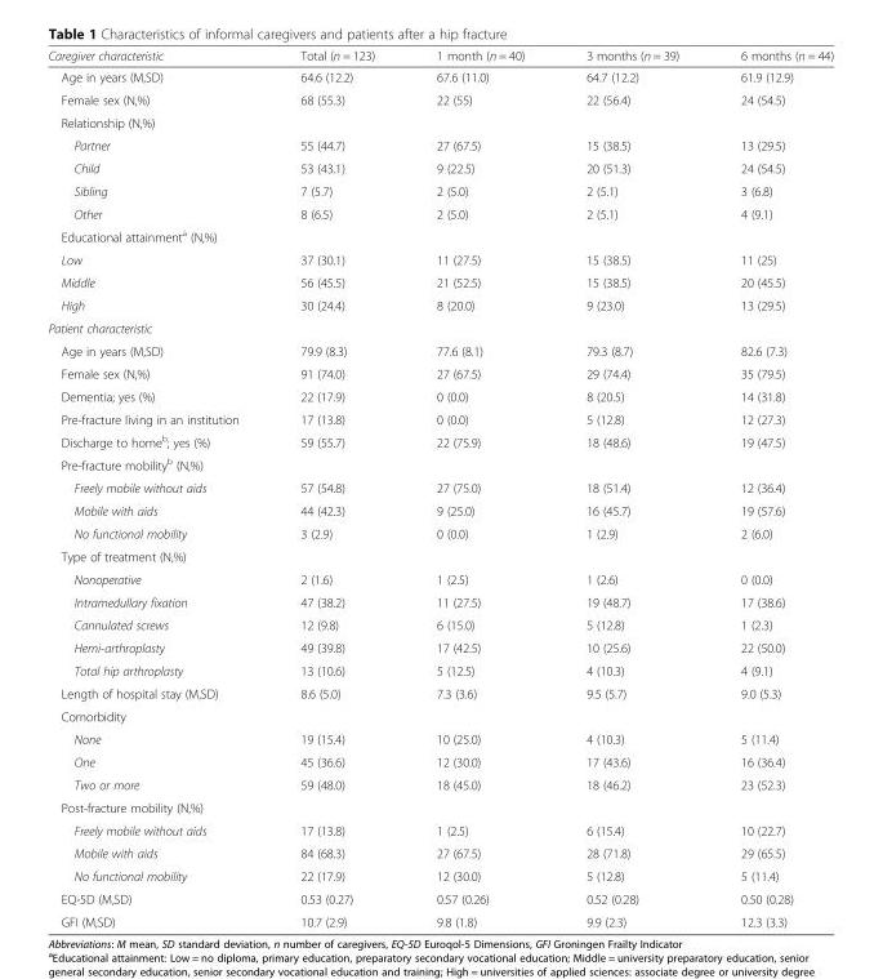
<table><thead><tr><td>Caregiver characteristic</td><td>Total (n = 123)</td><td>1 month (n = 40)</td><td>3 months (n = 39)</td><td>6 months (n = 44)</td></tr></thead><tbody><tr><td>Age in years (M,SD)</td><td>64.6 (12.2)</td><td>67.6 (11.0)</td><td>64.7 (12.2)</td><td>61.9 (12.9)</td></tr><tr><td>Female sex (N,%)</td><td>68 (55.3)</td><td>22 (55)</td><td>22 (56.4)</td><td>24 (54.5)</td></tr><tr><td colspan="5">Relationship (N,%)</td></tr><tr><td>Partner</td><td>55 (44.7)</td><td>27 (67.5)</td><td>15 (38.5)</td><td>13 (29.5)</td></tr><tr><td>Child</td><td>53 (43.1)</td><td>9 (22.5)</td><td>20 (51.3)</td><td>24 (54.5)</td></tr><tr><td>Sibling</td><td>7 (5.7)</td><td>2 (5.0)</td><td>2 (5.1)</td><td>3 (6.8)</td></tr><tr><td>Other</td><td>8 (6.5)</td><td>2 (5.0)</td><td>2 (5.1)</td><td>4 (9.1)</td></tr><tr><td colspan="5">Educational attainment<sup>a</sup> (N,%)</td></tr><tr><td>Low</td><td>37 (30.1)</td><td>11 (27.5)</td><td>15 (38.5)</td><td>11 (25)</td></tr><tr><td>Middle</td><td>56 (45.5)</td><td>21 (52.5)</td><td>15 (38.5)</td><td>20 (45.5)</td></tr><tr><td>High</td><td>30 (24.4)</td><td>8 (20.0)</td><td>9 (23.0)</td><td>13 (29.5)</td></tr><tr><td colspan="5">Patient characteristic</td></tr><tr><td>Age in years (M,SD)</td><td>79.9 (8.3)</td><td>77.6 (8.1)</td><td>79.3 (8.7)</td><td>82.6 (7.3)</td></tr><tr><td>Female sex (N,%)</td><td>91 (74.0)</td><td>27 (67.5)</td><td>29 (74.4)</td><td>35 (79.5)</td></tr><tr><td>Dementia; yes (%)</td><td>22 (17.9)</td><td>0 (0.0)</td><td>8 (20.5)</td><td>14 (31.8)</td></tr><tr><td>Pre-fracture living in an institution</td><td>17 (13.8)</td><td>0 (0.0)</td><td>5 (12.8)</td><td>12 (27.3)</td></tr><tr><td>Discharge to home<sup>b</sup>; yes (%)</td><td>59 (55.7)</td><td>22 (75.9)</td><td>18 (48.6)</td><td>19 (47.5)</td></tr><tr><td colspan="5">Pre-fracture mobility<sup>b</sup> (N,%)</td></tr><tr><td>Freely mobile without aids</td><td>57 (54.8)</td><td>27 (75.0)</td><td>18 (51.4)</td><td>12 (36.4)</td></tr><tr><td>Mobile with aids</td><td>44 (42.3)</td><td>9 (25.0)</td><td>16 (45.7)</td><td>19 (57.6)</td></tr><tr><td>No functional mobility</td><td>3 (2.9)</td><td>0 (0.0)</td><td>1 (2.9)</td><td>2 (6.0)</td></tr><tr><td colspan="5">Type of treatment (N,%)</td></tr><tr><td>Nonoperative</td><td>2 (1.6)</td><td>1 (2.5)</td><td>1 (2.6)</td><td>0 (0.0)</td></tr><tr><td>Intramedullary fixation</td><td>47 (38.2)</td><td>11 (27.5)</td><td>19 (48.7)</td><td>17 (38.6)</td></tr><tr><td>Cannulated screws</td><td>12 (9.8)</td><td>6 (15.0)</td><td>5 (12.8)</td><td>1 (2.3)</td></tr><tr><td>Hemi-arthroplasty</td><td>49 (39.8)</td><td>17 (42.5)</td><td>10 (25.6)</td><td>22 (50.0)</td></tr><tr><td>Total hip arthroplasty</td><td>13 (10.6)</td><td>5 (12.5)</td><td>4 (10.3)</td><td>4 (9.1)</td></tr><tr><td>Length of hospital stay (M,SD)</td><td>8.6 (5.0)</td><td>7.3 (3.6)</td><td>9.5 (5.7)</td><td>9.0 (5.3)</td></tr><tr><td colspan="5">Comorbidity</td></tr><tr><td>None</td><td>19 (15.4)</td><td>10 (25.0)</td><td>4 (10.3)</td><td>5 (11.4)</td></tr><tr><td>One</td><td>45 (36.6)</td><td>12 (30.0)</td><td>17 (43.6)</td><td>16 (36.4)</td></tr><tr><td>Two or more</td><td>59 (48.0)</td><td>18 (45.0)</td><td>18 (46.2)</td><td>23 (52.3)</td></tr><tr><td colspan="5">Post-fracture mobility (N,%)</td></tr><tr><td>Freely mobile without aids</td><td>17 (13.8)</td><td>1 (2.5)</td><td>6 (15.4)</td><td>10 (22.7)</td></tr><tr><td>Mobile with aids</td><td>84 (68.3)</td><td>27 (67.5)</td><td>28 (71.8)</td><td>29 (65.5)</td></tr><tr><td>No functional mobility</td><td>22 (17.9)</td><td>12 (30.0)</td><td>5 (12.8)</td><td>5 (11.4)</td></tr><tr><td>EQ-5D (M,SD)</td><td>0.53 (0.27)</td><td>0.57 (0.26)</td><td>0.52 (0.28)</td><td>0.50 (0.28)</td></tr><tr><td>GFI (M,SD)</td><td>10.7 (2.9)</td><td>9.8 (1.8)</td><td>9.9 (2.3)</td><td>12.3 (3.3)</td></tr></tbody></table>